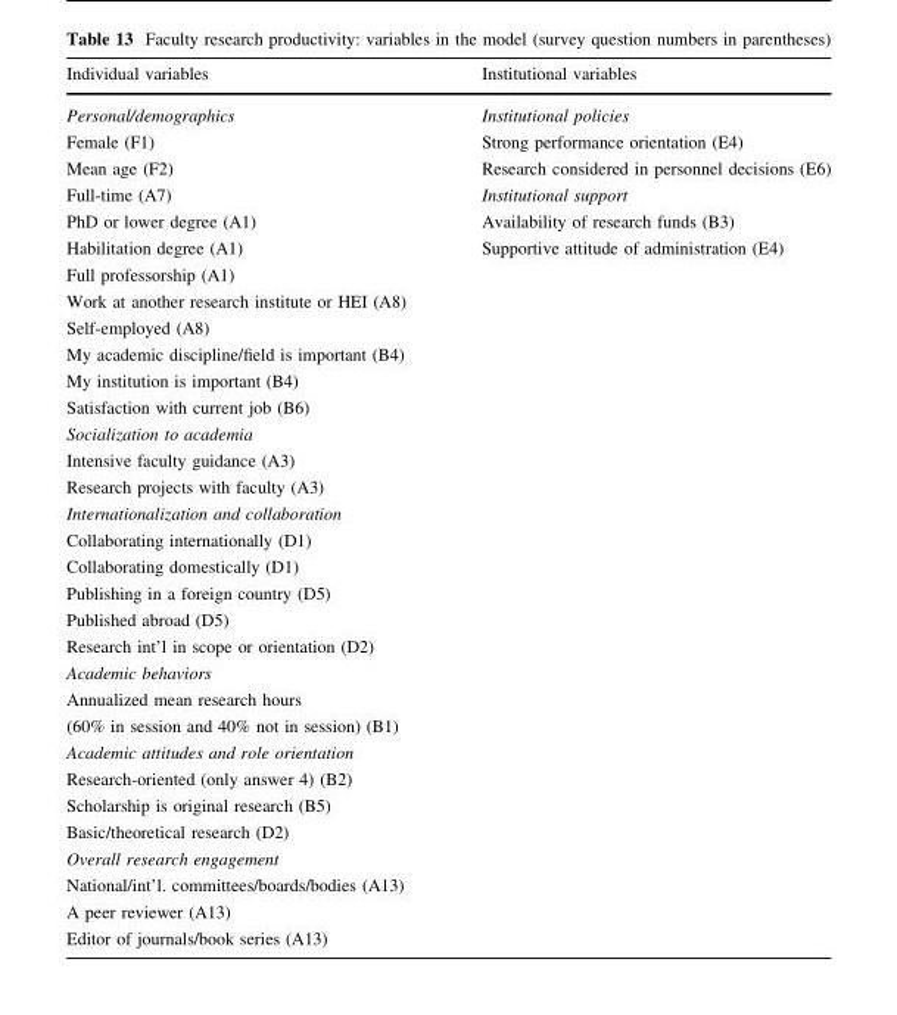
<table><thead><tr><td>Individual variables</td><td>Institutional variables</td></tr></thead><tbody><tr><td>Personal/demographics</td><td>Institutional policies</td></tr><tr><td>Female (F1)</td><td>Strong performance orientation (E4)</td></tr><tr><td>Mean age (F2)</td><td>Research considered in personnel decisions (E6)</td></tr><tr><td>Full-time (A7)</td><td>Institutional support</td></tr><tr><td>PhD or lower degree (A1)</td><td>Availability of research funds (B3)</td></tr><tr><td>Habilitation degree (A1)</td><td>Supportive attitude of administration (E4)</td></tr><tr><td>Full professorship (A1)</td><td rowspan="26"></td></tr><tr><td>Work at another research institute or HEI (A8)</td></tr><tr><td>Self-employed (A8)</td></tr><tr><td>My academic discipline/field is important (B4)</td></tr><tr><td>My institution is important (B4)</td></tr><tr><td>Satisfaction with current job (B6)</td></tr><tr><td>Socialization to academia</td></tr><tr><td>Intensive faculty guidance (A3)</td></tr><tr><td>Research projects with faculty (A3)</td></tr><tr><td>Internationalization and collaboration</td></tr><tr><td>Collaborating internationally (D1)</td></tr><tr><td>Collaborating domestically (D1)</td></tr><tr><td>Publishing in a foreign country (D5)</td></tr><tr><td>Published abroad (D5)</td></tr><tr><td>Research int’l in scope or orientation (D2)</td></tr><tr><td>Academic behaviors</td></tr><tr><td>Annualized mean research hours</td></tr><tr><td>(60% in session and 40% not in session) (B1)</td></tr><tr><td>Academic attitudes and role orientation</td></tr><tr><td>Research-oriented (only answer 4) (B2)</td></tr><tr><td>Scholarship is original research (B5)</td></tr><tr><td>Basic/theoretical research (D2)</td></tr><tr><td>Overall research engagement</td></tr><tr><td>National/int’l. committees/boards/bodies (A13)</td></tr><tr><td>A peer reviewer (A13)</td></tr><tr><td>Editor of journals/book series (A13)</td></tr></tbody></table>